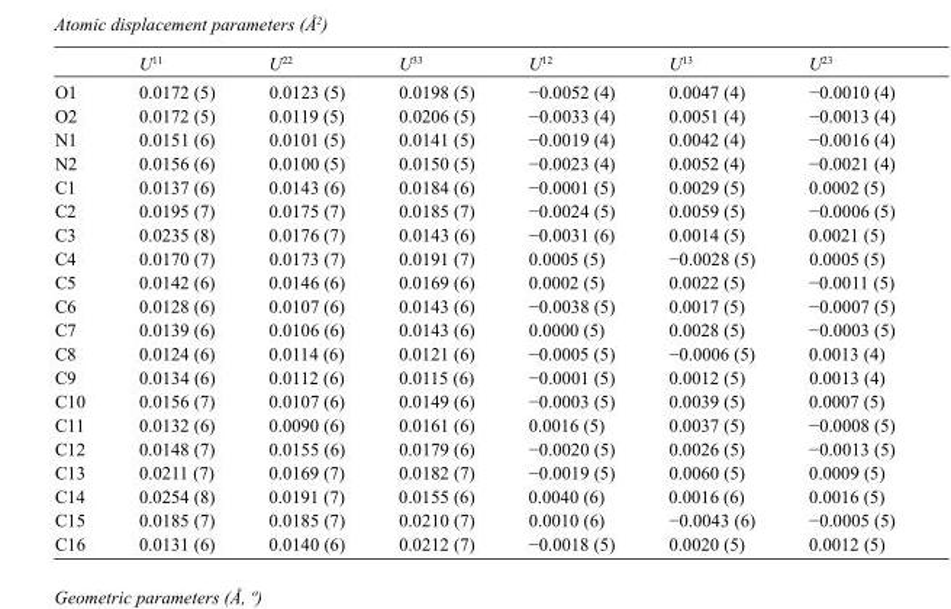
<table><thead><tr><td></td><td>U<sup>11</sup></td><td>U<sup>22</sup></td><td>U<sup>33</sup></td><td>U<sup>12</sup></td><td>U<sup>13</sup></td><td>U<sup>23</sup></td></tr></thead><tbody><tr><td>O1</td><td>0.0172 (5)</td><td>0.0123 (5)</td><td>0.0198 (5)</td><td>−0.0052 (4)</td><td>0.0047 (4)</td><td>−0.0010 (4)</td></tr><tr><td>O2</td><td>0.0172 (5)</td><td>0.0119 (5)</td><td>0.0206 (5)</td><td>−0.0033 (4)</td><td>0.0051 (4)</td><td>−0.0013 (4)</td></tr><tr><td>N1</td><td>0.0151 (6)</td><td>0.0101 (5)</td><td>0.0141 (5)</td><td>−0.0019 (4)</td><td>0.0042 (4)</td><td>−0.0016 (4)</td></tr><tr><td>N2</td><td>0.0156 (6)</td><td>0.0100 (5)</td><td>0.0150 (5)</td><td>−0.0023 (4)</td><td>0.0052 (4)</td><td>−0.0021 (4)</td></tr><tr><td>C1</td><td>0.0137 (6)</td><td>0.0143 (6)</td><td>0.0184 (6)</td><td>−0.0001 (5)</td><td>0.0029 (5)</td><td>0.0002 (5)</td></tr><tr><td>C2</td><td>0.0195 (7)</td><td>0.0175 (7)</td><td>0.0185 (7)</td><td>−0.0024 (5)</td><td>0.0059 (5)</td><td>−0.0006 (5)</td></tr><tr><td>C3</td><td>0.0235 (8)</td><td>0.0176 (7)</td><td>0.0143 (6)</td><td>−0.0031 (6)</td><td>0.0014 (5)</td><td>0.0021 (5)</td></tr><tr><td>C4</td><td>0.0170 (7)</td><td>0.0173 (7)</td><td>0.0191 (7)</td><td>0.0005 (5)</td><td>−0.0028 (5)</td><td>0.0005 (5)</td></tr><tr><td>C5</td><td>0.0142 (6)</td><td>0.0146 (6)</td><td>0.0169 (6)</td><td>0.0002 (5)</td><td>0.0022 (5)</td><td>−0.0011 (5)</td></tr><tr><td>C6</td><td>0.0128 (6)</td><td>0.0107 (6)</td><td>0.0143 (6)</td><td>−0.0038 (5)</td><td>0.0017 (5)</td><td>−0.0007 (5)</td></tr><tr><td>C7</td><td>0.0139 (6)</td><td>0.0106 (6)</td><td>0.0143 (6)</td><td>0.0000 (5)</td><td>0.0028 (5)</td><td>−0.0003 (5)</td></tr><tr><td>C8</td><td>0.0124 (6)</td><td>0.0114 (6)</td><td>0.0121 (6)</td><td>−0.0005 (5)</td><td>−0.0006 (5)</td><td>0.0013 (4)</td></tr><tr><td>C9</td><td>0.0134 (6)</td><td>0.0112 (6)</td><td>0.0115 (6)</td><td>−0.0001 (5)</td><td>0.0012 (5)</td><td>0.0013 (4)</td></tr><tr><td>C10</td><td>0.0156 (7)</td><td>0.0107 (6)</td><td>0.0149 (6)</td><td>−0.0003 (5)</td><td>0.0039 (5)</td><td>0.0007 (5)</td></tr><tr><td>C11</td><td>0.0132 (6)</td><td>0.0090 (6)</td><td>0.0161 (6)</td><td>0.0016 (5)</td><td>0.0037 (5)</td><td>−0.0008 (5)</td></tr><tr><td>C12</td><td>0.0148 (7)</td><td>0.0155 (6)</td><td>0.0179 (6)</td><td>−0.0020 (5)</td><td>0.0026 (5)</td><td>−0.0013 (5)</td></tr><tr><td>C13</td><td>0.0211 (7)</td><td>0.0169 (7)</td><td>0.0182 (7)</td><td>−0.0019 (5)</td><td>0.0060 (5)</td><td>0.0009 (5)</td></tr><tr><td>C14</td><td>0.0254 (8)</td><td>0.0191 (7)</td><td>0.0155 (6)</td><td>0.0040 (6)</td><td>0.0016 (6)</td><td>0.0016 (5)</td></tr><tr><td>C15</td><td>0.0185 (7)</td><td>0.0185 (7)</td><td>0.0210 (7)</td><td>0.0010 (6)</td><td>−0.0043 (6)</td><td>−0.0005 (5)</td></tr><tr><td>C16</td><td>0.0131 (6)</td><td>0.0140 (6)</td><td>0.0212 (7)</td><td>−0.0018 (5)</td><td>0.0020 (5)</td><td>0.0012 (5)</td></tr></tbody></table>